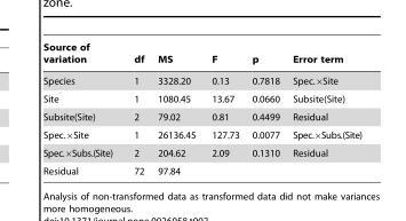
<table><thead><tr><td>Source of variation</td><td>df</td><td>MS</td><td>F</td><td>p</td><td>Error term</td></tr></thead><tbody><tr><td>Species</td><td>1</td><td>3328.20</td><td>0.13</td><td>0.7818</td><td>Spec.×Site</td></tr><tr><td>Site</td><td>1</td><td>1080.45</td><td>13.67</td><td>0.0660</td><td>Subsite(Site)</td></tr><tr><td>Subsite(Site)</td><td>2</td><td>79.02</td><td>0.81</td><td>0.4499</td><td>Residual</td></tr><tr><td>Spec.×Site</td><td>1</td><td>26136.45</td><td>127.73</td><td>0.0077</td><td>Spec.×Subs.(Site)</td></tr><tr><td>Spec.×Subs.(Site)</td><td>2</td><td>204.62</td><td>2.09</td><td>0.1310</td><td>Residual</td></tr><tr><td>Residual</td><td>72</td><td>97.84</td><td></td><td></td><td></td></tr></tbody></table>